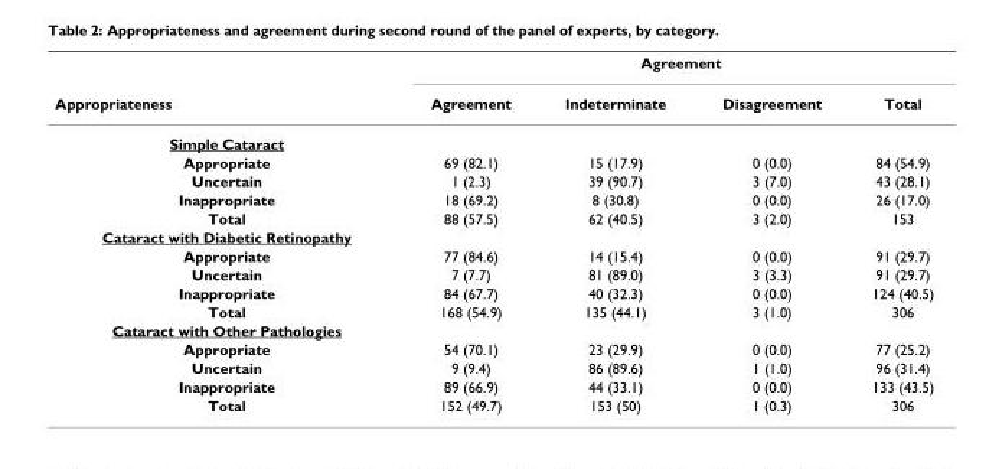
<table><thead><tr><td rowspan="2">Appropriateness</td><td colspan="4">Agreement</td></tr><tr><td>Agreement</td><td>Indeterminate</td><td>Disagreement</td><td>Total</td></tr></thead><tbody><tr><td colspan="5">Simple Cataract</td></tr><tr><td>Appropriate</td><td>69 (82.1)</td><td>15 (17.9)</td><td>0 (0.0)</td><td>84 (54.9)</td></tr><tr><td>Uncertain</td><td>1 (2.3)</td><td>39 (90.7)</td><td>3 (7.0)</td><td>43 (28.1)</td></tr><tr><td>Inappropriate</td><td>18 (69.2)</td><td>8 (30.8)</td><td>0 (0.0)</td><td>26 (17.0)</td></tr><tr><td>Total</td><td>88 (57.5)</td><td>62 (40.5)</td><td>3 (2.0)</td><td>153</td></tr><tr><td colspan="5">Cataract with Diabetic Retinopathy</td></tr><tr><td>Appropriate</td><td>77 (84.6)</td><td>14 (15.4)</td><td>0 (0.0)</td><td>91 (29.7)</td></tr><tr><td>Uncertain</td><td>7 (7.7)</td><td>81 (89.0)</td><td>3 (3.3)</td><td>91 (29.7)</td></tr><tr><td>Inappropriate</td><td>84 (67.7)</td><td>40 (32.3)</td><td>0 (0.0)</td><td>124 (40.5)</td></tr><tr><td>Total</td><td>168 (54.9)</td><td>135 (44.1)</td><td>3 (1.0)</td><td>306</td></tr><tr><td colspan="5">Cataract with Other Pathologies</td></tr><tr><td>Appropriate</td><td>54 (70.1)</td><td>23 (29.9)</td><td>0 (0.0)</td><td>77 (25.2)</td></tr><tr><td>Uncertain</td><td>9 (9.4)</td><td>86 (89.6)</td><td>1 (1.0)</td><td>96 (31.4)</td></tr><tr><td>Inappropriate</td><td>89 (66.9)</td><td>44 (33.1)</td><td>0 (0.0)</td><td>133 (43.5)</td></tr><tr><td>Total</td><td>152 (49.7)</td><td>153 (50)</td><td>1 (0.3)</td><td>306</td></tr></tbody></table>